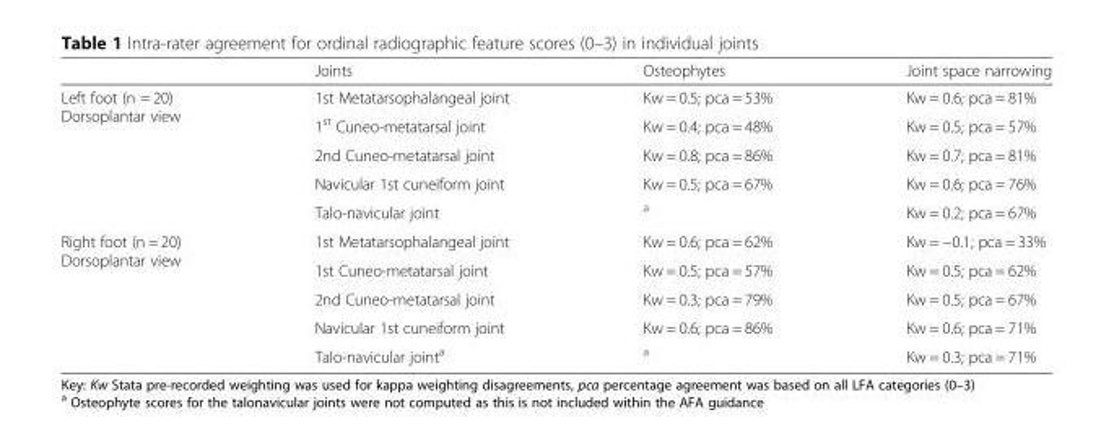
<table><thead><tr><td></td><td>Joints</td><td>Osteophytes</td><td>Joint space narrowing</td></tr></thead><tbody><tr><td rowspan="5">Left foot (n = 20) Dorsoplantar view</td><td>1st Metatarsophalangeal joint</td><td>Kw = 0.5; pca = 53%</td><td>Kw = 0.6; pca = 81%</td></tr><tr><td>1<sup>st</sup> Cuneo-metatarsal joint</td><td>Kw = 0.4; pca = 48%</td><td>Kw = 0.5; pca = 57%</td></tr><tr><td>2nd Cuneo-metatarsal joint</td><td>Kw = 0.8; pca = 86%</td><td>Kw = 0.7; pca = 81%</td></tr><tr><td>Navicular 1st cuneiform joint</td><td>Kw = 0.5; pca = 67%</td><td>Kw = 0.6; pca = 76%</td></tr><tr><td>Talo-navicular joint</td><td><sup>a</sup></td><td>Kw = 0.2; pca = 67%</td></tr><tr><td rowspan="5">Right foot (n = 20) Dorsoplantar view</td><td>1st Metatarsophalangeal joint</td><td>Kw = 0.6; pca = 62%</td><td>Kw = −0.1; pca = 33%</td></tr><tr><td>1st Cuneo-metatarsal joint</td><td>Kw = 0.5; pca = 57%</td><td>Kw = 0.5; pca = 62%</td></tr><tr><td>2nd Cuneo-metatarsal joint</td><td>Kw = 0.3; pca = 79%</td><td>Kw = 0.5; pca = 67%</td></tr><tr><td>Navicular 1st cuneiform joint</td><td>Kw = 0.6; pca = 86%</td><td>Kw = 0.6; pca = 71%</td></tr><tr><td>Talo-navicular joint<sup>a</sup></td><td><sup>a</sup></td><td>Kw = 0.3; pca = 71%</td></tr></tbody></table>